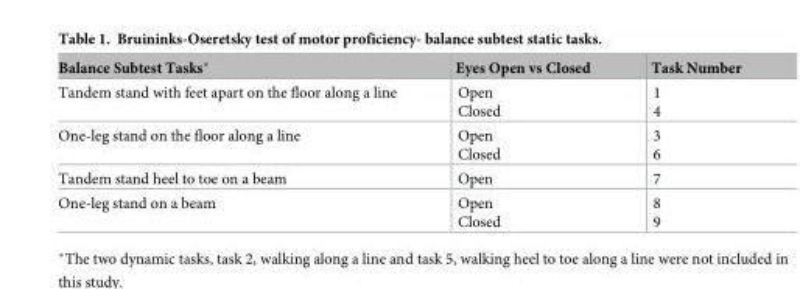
<table><thead><tr><td>Balance Subtest Tasks*</td><td>Eyes Open vs Closed</td><td>Task Number</td></tr></thead><tbody><tr><td>Tandem stand with feet apart on the floor along a line</td><td>Open Closed</td><td>1 4</td></tr><tr><td>One-leg stand on the floor along a line</td><td>Open Closed</td><td>3 6</td></tr><tr><td>Tandem stand heel to toe on a beam</td><td>Open</td><td>7</td></tr><tr><td>One-leg stand on a beam</td><td>Open Closed</td><td>8 9</td></tr></tbody></table>